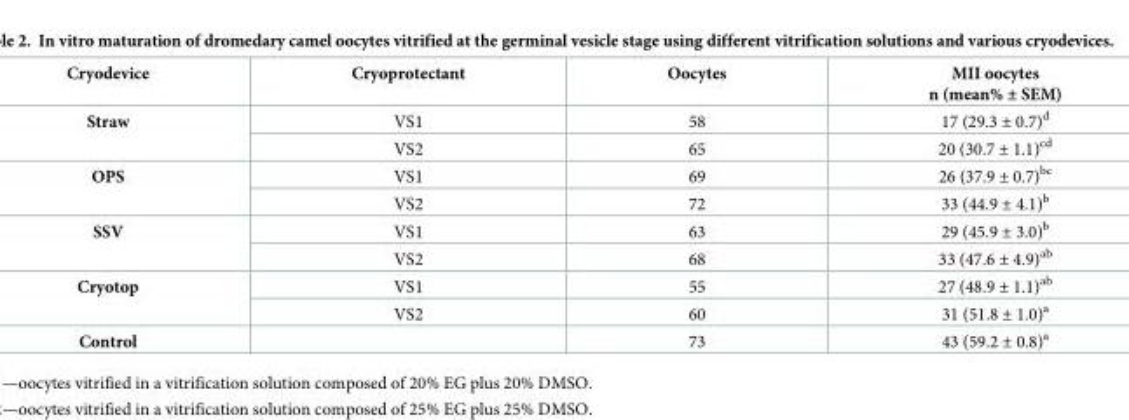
<table><thead><tr><td>Cryodevice</td><td>Cryoprotectant</td><td>Oocytes</td><td>MII oocytes n (mean% ± SEM)</td></tr></thead><tbody><tr><td rowspan="2">Straw</td><td>VS1</td><td>58</td><td>17 (29.3 ± 0.7)<sup>d</sup></td></tr><tr><td>VS2</td><td>65</td><td>20 (30.7 ± 1.1)<sup>cd</sup></td></tr><tr><td rowspan="2">OPS</td><td>VS1</td><td>69</td><td>26 (37.9 ± 0.7)<sup>bc</sup></td></tr><tr><td>VS2</td><td>72</td><td>33 (44.9 ± 4.1)<sup>b</sup></td></tr><tr><td rowspan="2">SSV</td><td>VS1</td><td>63</td><td>29 (45.9 ± 3.0)<sup>b</sup></td></tr><tr><td>VS2</td><td>68</td><td>33 (47.6 ± 4.9)<sup>ab</sup></td></tr><tr><td rowspan="2">Cryotop</td><td>VS1</td><td>55</td><td>27 (48.9 ± 1.1)<sup>ab</sup></td></tr><tr><td>VS2</td><td>60</td><td>31 (51.8 ± 1.0)<sup>a</sup></td></tr><tr><td>Control</td><td></td><td>73</td><td>43 (59.2 ± 0.8)<sup>a</sup></td></tr></tbody></table>